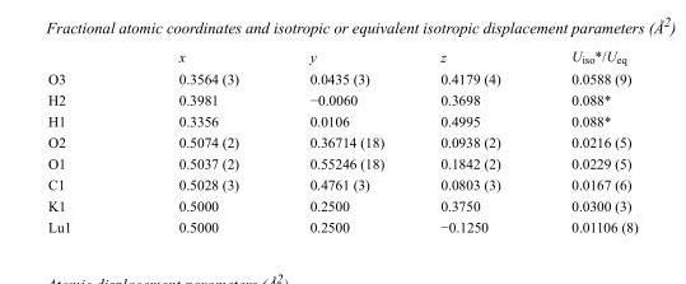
<table><thead><tr><td></td><td>x</td><td>y</td><td>z</td><td>U<sub>iso</sub>*/U<sub>eq</sub></td></tr></thead><tbody><tr><td>O3</td><td>0.3564 (3)</td><td>0.0435 (3)</td><td>0.4179 (4)</td><td>0.0588 (9)</td></tr><tr><td>H2</td><td>0.3981</td><td>−0.0060</td><td>0.3698</td><td>0.088*</td></tr><tr><td>H1</td><td>0.3356</td><td>0.0106</td><td>0.4995</td><td>0.088*</td></tr><tr><td>O2</td><td>0.5074 (2)</td><td>0.36714 (18)</td><td>0.0938 (2)</td><td>0.0216 (5)</td></tr><tr><td>O1</td><td>0.5037 (2)</td><td>0.55246 (18)</td><td>0.1842 (2)</td><td>0.0229 (5)</td></tr><tr><td>C1</td><td>0.5028 (3)</td><td>0.4761 (3)</td><td>0.0803 (3)</td><td>0.0167 (6)</td></tr><tr><td>K1</td><td>0.5000</td><td>0.2500</td><td>0.3750</td><td>0.0300 (3)</td></tr><tr><td>Lu1</td><td>0.5000</td><td>0.2500</td><td>−0.1250</td><td>0.01106 (8)</td></tr></tbody></table>